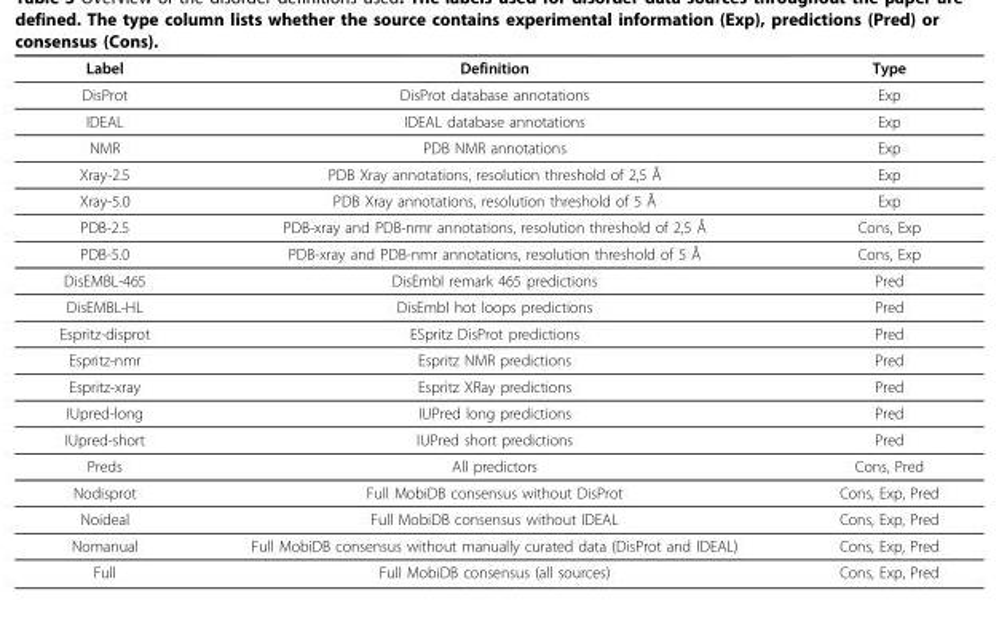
<table><thead><tr><td>Label</td><td>Definition</td><td>Type</td></tr></thead><tbody><tr><td>DisProt</td><td>DisProt database annotations</td><td>Exp</td></tr><tr><td>IDEAL</td><td>IDEAL database annotations</td><td>Exp</td></tr><tr><td>NMR</td><td>PDB NMR annotations</td><td>Exp</td></tr><tr><td>Xray-2.5</td><td>PDB Xray annotations, resolution threshold of 2,5 Å</td><td>Exp</td></tr><tr><td>Xray-5.0</td><td>PDB Xray annotations, resolution threshold of 5 Å</td><td>Exp</td></tr><tr><td>PDB-2.5</td><td>PDB-xray and PDB-nmr annotations, resolution threshold of 2,5 Å</td><td>Cons, Exp</td></tr><tr><td>PDB-5.0</td><td>PDB-xray and PDB-nmr annotations, resolution threshold of 5 Å</td><td>Cons, Exp</td></tr><tr><td>DisEMBL-465</td><td>DisEmbl remark 465 predictions</td><td>Pred</td></tr><tr><td>DisEMBL-HL</td><td>DisEmbl hot loops predictions</td><td>Pred</td></tr><tr><td>Espritz-disprot</td><td>ESpritz DisProt predictions</td><td>Pred</td></tr><tr><td>Espritz-nmr</td><td>Espritz NMR predictions</td><td>Pred</td></tr><tr><td>Espritz-xray</td><td>Espritz XRay predictions</td><td>Pred</td></tr><tr><td>IUpred-long</td><td>IUPred long predictions</td><td>Pred</td></tr><tr><td>IUpred-short</td><td>IUPred short predictions</td><td>Pred</td></tr><tr><td>Preds</td><td>All predictors</td><td>Cons, Pred</td></tr><tr><td>Nodisprot</td><td>Full MobiDB consensus without DisProt</td><td>Cons, Exp, Pred</td></tr><tr><td>Noideal</td><td>Full MobiDB consensus without IDEAL</td><td>Cons, Exp, Pred</td></tr><tr><td>Nomanual</td><td>Full MobiDB consensus without manually curated data (DisProt and IDEAL)</td><td>Cons, Exp, Pred</td></tr><tr><td>Full</td><td>Full MobiDB consensus (all sources)</td><td>Cons, Exp, Pred</td></tr></tbody></table>